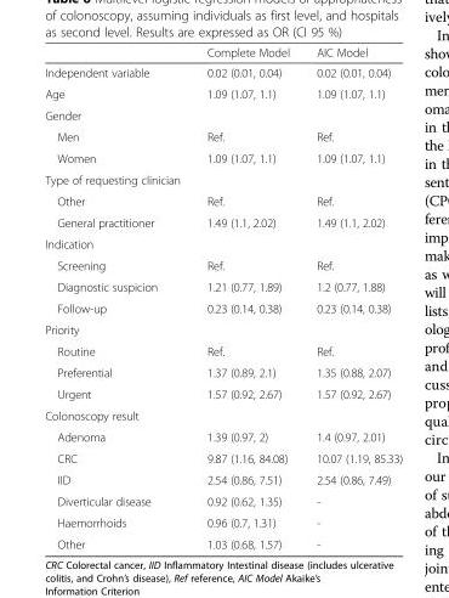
<table><thead><tr><td></td><td>Complete Model</td><td>AIC Model</td></tr></thead><tbody><tr><td>Independent variable</td><td>0.02 (0.01, 0.04)</td><td>0.02 (0.01, 0.04)</td></tr><tr><td>Age</td><td>1.09 (1.07, 1.1)</td><td>1.09 (1.07, 1.1)</td></tr><tr><td colspan="3">Gender</td></tr><tr><td>Men</td><td>Ref.</td><td>Ref.</td></tr><tr><td>Women</td><td>1.09 (1.07, 1.1)</td><td>1.09 (1.07, 1.1)</td></tr><tr><td colspan="3">Type of requesting clinician</td></tr><tr><td>Other</td><td>Ref.</td><td>Ref.</td></tr><tr><td>General practitioner</td><td>1.49 (1.1, 2.02)</td><td>1.49 (1.1, 2.02)</td></tr><tr><td colspan="3">Indication</td></tr><tr><td>Screening</td><td>Ref.</td><td>Ref.</td></tr><tr><td>Diagnostic suspicion</td><td>1.21 (0.77, 1.89)</td><td>1.2 (0.77, 1.88)</td></tr><tr><td>Follow-up</td><td>0.23 (0.14, 0.38)</td><td>0.23 (0.14, 0.38)</td></tr><tr><td colspan="3">Priority</td></tr><tr><td>Routine</td><td>Ref.</td><td>Ref.</td></tr><tr><td>Preferential</td><td>1.37 (0.89, 2.1)</td><td>1.35 (0.88, 2.07)</td></tr><tr><td>Urgent</td><td>1.57 (0.92, 2.67)</td><td>1.57 (0.92, 2.67)</td></tr><tr><td colspan="3">Colonoscopy result</td></tr><tr><td>Adenoma</td><td>1.39 (0.97, 2)</td><td>1.4 (0.97, 2.01)</td></tr><tr><td>CRC</td><td>9.87 (1.16, 84.08)</td><td>10.07 (1.19, 85.33)</td></tr><tr><td>IID</td><td>2.54 (0.86, 7.51)</td><td>2.54 (0.86, 7.49)</td></tr><tr><td>Diverticular disease</td><td>0.92 (0.62, 1.35)</td><td>-</td></tr><tr><td>Haemorrhoids</td><td>0.96 (0.7, 1.31)</td><td>-</td></tr><tr><td>Other</td><td>1.03 (0.68, 1.57)</td><td>-</td></tr></tbody></table>